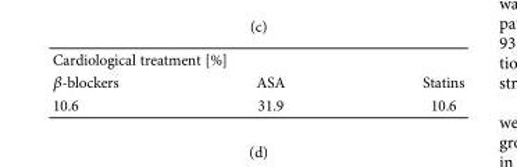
<table><tbody><tr><td colspan="3">Cardiological treatment [%]</td></tr><tr><td>β-blockers</td><td>ASA</td><td>Statins</td></tr><tr><td>10.6</td><td>31.9</td><td>10.6</td></tr></tbody></table>